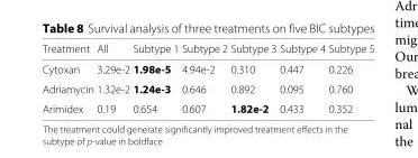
<table><thead><tr><td>Treatment</td><td>All</td><td>Subtype 1</td><td>Subtype 2</td><td>Subtype 3</td><td>Subtype 4</td><td>Subtype 5</td></tr></thead><tbody><tr><td>Cytoxan</td><td>3.29e-2</td><td>1.98e-5</td><td>4.94e-2</td><td>0.310</td><td>0.447</td><td>0.226</td></tr><tr><td>Adriamycin</td><td>1.32e-2</td><td>1.24e-3</td><td>0.646</td><td>0.892</td><td>0.095</td><td>0.760</td></tr><tr><td>Arimidex</td><td>0.19</td><td>0.654</td><td>0.607</td><td>1.82e-2</td><td>0.433</td><td>0.352</td></tr></tbody></table>